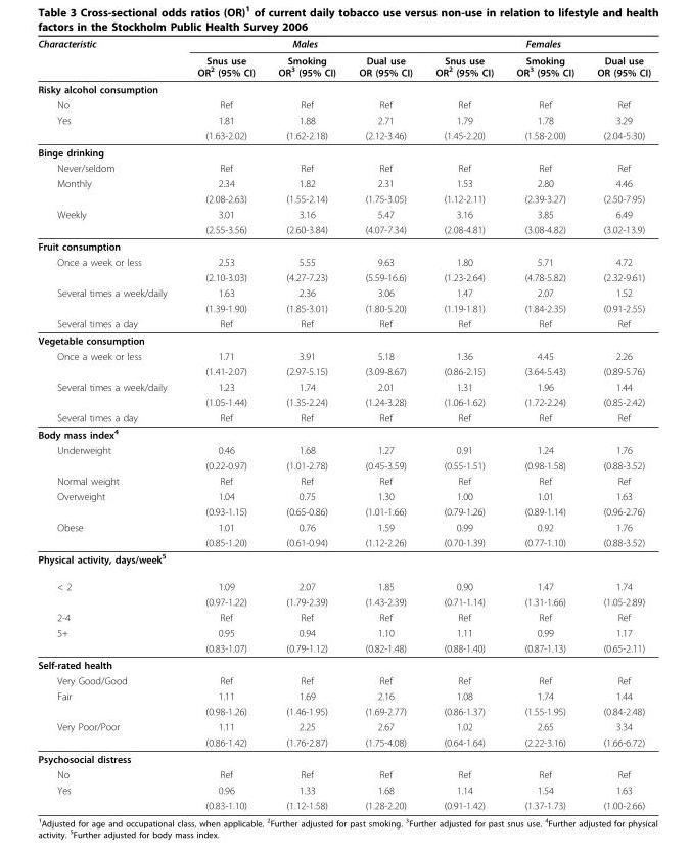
<table><thead><tr><td rowspan="2">Characteristic</td><td colspan="3">Males</td><td colspan="3">Females</td></tr><tr><td>Snus use OR<sup>2</sup> (95% CI)</td><td>Smoking OR<sup>3</sup> (95% CI)</td><td>Dual use OR (95% CI)</td><td>Snus use OR<sup>2</sup> (95% CI)</td><td>Smoking OR<sup>3</sup> (95% CI)</td><td>Dual use OR (95% CI)</td></tr></thead><tbody><tr><td colspan="7">Risky alcohol consumption</td></tr><tr><td>No</td><td>Ref</td><td>Ref</td><td>Ref</td><td>Ref</td><td>Ref</td><td>Ref</td></tr><tr><td rowspan="2">Yes</td><td>1.81</td><td>1.88</td><td>2.71</td><td>1.79</td><td>1.78</td><td>3.29</td></tr><tr><td>(1.63-2.02)</td><td>(1.62-2.18)</td><td>(2.12-3.46)</td><td>(1.45-2.20)</td><td>(1.58-2.00)</td><td>(2.04-5.30)</td></tr><tr><td colspan="7">Binge drinking</td></tr><tr><td>Never/seldom</td><td>Ref</td><td>Ref</td><td>Ref</td><td>Ref</td><td>Ref</td><td>Ref</td></tr><tr><td rowspan="2">Monthly</td><td>2.34</td><td>1.82</td><td>2.31</td><td>1.53</td><td>2.80</td><td>4.46</td></tr><tr><td>(2.08-2.63)</td><td>(1.55-2.14)</td><td>(1.75-3.05)</td><td>(1.12-2.11)</td><td>(2.39-3.27)</td><td>(2.50-7.95)</td></tr><tr><td rowspan="2">Weekly</td><td>3.01</td><td>3.16</td><td>5.47</td><td>3.16</td><td>3.85</td><td>6.49</td></tr><tr><td>(2.55-3.56)</td><td>(2.60-3.84)</td><td>(4.07-7.34)</td><td>(2.08-4.81)</td><td>(3.08-4.82)</td><td>(3.02-13.9)</td></tr><tr><td colspan="7">Fruit consumption</td></tr><tr><td rowspan="2">Once a week or less</td><td>2.53</td><td>5.55</td><td>9.63</td><td>1.80</td><td>5.71</td><td>4.72</td></tr><tr><td>(2.10-3.03)</td><td>(4.27-7.23)</td><td>(5.59-16.6)</td><td>(1.23-2.64)</td><td>(4.78-5.82)</td><td>(2.32-9.61)</td></tr><tr><td rowspan="2">Several times a week/daily</td><td>1.63</td><td>2.36</td><td>3.06</td><td>1.47</td><td>2.07</td><td>1.52</td></tr><tr><td>(1.39-1.90)</td><td>(1.85-3.01)</td><td>(1.80-5.20)</td><td>(1.19-1.81)</td><td>(1.84-2.35)</td><td>(0.91-2.55)</td></tr><tr><td>Several times a day</td><td>Ref</td><td>Ref</td><td>Ref</td><td>Ref</td><td>Ref</td><td>Ref</td></tr><tr><td colspan="7">Vegetable consumption</td></tr><tr><td rowspan="2">Once a week or less</td><td>1.71</td><td>3.91</td><td>5.18</td><td>1.36</td><td>4.45</td><td>2.26</td></tr><tr><td>(1.41-2.07)</td><td>(2.97-5.15)</td><td>(3.09-8.67)</td><td>(0.86-2.15)</td><td>(3.64-5.43)</td><td>(0.89-5.76)</td></tr><tr><td rowspan="2">Several times a week/daily</td><td>1.23</td><td>1.74</td><td>2.01</td><td>1.31</td><td>1.96</td><td>1.44</td></tr><tr><td>(1.05-1.44)</td><td>(1.35-2.24)</td><td>(1.24-3.28)</td><td>(1.06-1.62)</td><td>(1.72-2.24)</td><td>(0.85-2.42)</td></tr><tr><td>Several times a day</td><td>Ref</td><td>Ref</td><td>Ref</td><td>Ref</td><td>Ref</td><td>Ref</td></tr><tr><td colspan="7">Body mass index<sup>4</sup></td></tr><tr><td rowspan="2">Underweight</td><td>0.46</td><td>1.68</td><td>1.27</td><td>0.91</td><td>1.24</td><td>1.76</td></tr><tr><td>(0.22-0.97)</td><td>(1.01-2.78)</td><td>(0.45-3.59)</td><td>(0.55-1.51)</td><td>(0.98-1.58)</td><td>(0.88-3.52)</td></tr><tr><td>Normal weight</td><td>Ref</td><td>Ref</td><td>Ref</td><td>Ref</td><td>Ref</td><td>Ref</td></tr><tr><td rowspan="2">Overweight</td><td>1.04</td><td>0.75</td><td>1.30</td><td>1.00</td><td>1.01</td><td>1.63</td></tr><tr><td>(0.93-1.15)</td><td>(0.65-0.86)</td><td>(1.01-1.66)</td><td>(0.79-1.26)</td><td>(0.89-1.14)</td><td>(0.96-2.76)</td></tr><tr><td rowspan="2">Obese</td><td>1.01</td><td>0.76</td><td>1.59</td><td>0.99</td><td>0.92</td><td>1.76</td></tr><tr><td>(0.85-1.20)</td><td>(0.61-0.94)</td><td>(1.12-2.26)</td><td>(0.70-1.39)</td><td>(0.77-1.10)</td><td>(0.88-3.52)</td></tr><tr><td colspan="7">Physical activity, days/week<sup>5</sup></td></tr><tr><td rowspan="2">&lt; 2</td><td>1.09</td><td>2.07</td><td>1.85</td><td>0.90</td><td>1.47</td><td>1.74</td></tr><tr><td>(0.97-1.22)</td><td>(1.79-2.39)</td><td>(1.43-2.39)</td><td>(0.71-1.14)</td><td>(1.31-1.66)</td><td>(1.05-2.89)</td></tr><tr><td>2-4</td><td>Ref</td><td>Ref</td><td>Ref</td><td>Ref</td><td>Ref</td><td>Ref</td></tr><tr><td rowspan="2">5+</td><td>0.95</td><td>0.94</td><td>1.10</td><td>1.11</td><td>0.99</td><td>1.17</td></tr><tr><td>(0.83-1.07)</td><td>(0.79-1.12)</td><td>(0.82-1.48)</td><td>(0.88-1.40)</td><td>(0.87-1.13)</td><td>(0.65-2.11)</td></tr><tr><td colspan="7">Self-rated health</td></tr><tr><td>Very Good/Good</td><td>Ref</td><td>Ref</td><td>Ref</td><td>Ref</td><td>Ref</td><td>Ref</td></tr><tr><td rowspan="2">Fair</td><td>1.11</td><td>1.69</td><td>2.16</td><td>1.08</td><td>1.74</td><td>1.44</td></tr><tr><td>(0.98-1.26)</td><td>(1.46-1.95)</td><td>(1.69-2.77)</td><td>(0.86-1.37)</td><td>(1.55-1.95)</td><td>(0.84-2.48)</td></tr><tr><td rowspan="2">Very Poor/Poor</td><td>1.11</td><td>2.25</td><td>2.67</td><td>1.02</td><td>2.65</td><td>3.34</td></tr><tr><td>(0.86-1.42)</td><td>(1.76-2.87)</td><td>(1.75-4.08)</td><td>(0.64-1.64)</td><td>(2.22-3.16)</td><td>(1.66-6.72)</td></tr><tr><td colspan="7">Psychosocial distress</td></tr><tr><td>No</td><td>Ref</td><td>Ref</td><td>Ref</td><td>Ref</td><td>Ref</td><td>Ref</td></tr><tr><td rowspan="2">Yes</td><td>0.96</td><td>1.33</td><td>1.68</td><td>1.14</td><td>1.54</td><td>1.63</td></tr><tr><td>(0.83-1.10)</td><td>(1.12-1.58)</td><td>(1.28-2.20)</td><td>(0.91-1.42)</td><td>(1.37-1.73)</td><td>(1.00-2.66)</td></tr></tbody></table>